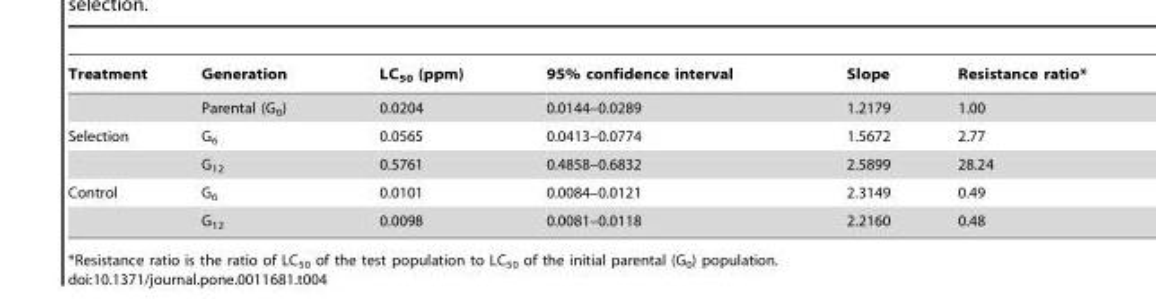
<table><thead><tr><td>Treatment</td><td>Generation</td><td>LC<sub>50</sub> (ppm)</td><td>95% confidence interval</td><td>Slope</td><td>Resistance ratio*</td></tr></thead><tbody><tr><td></td><td>Parental (G<sub>0</sub>)</td><td>0.0204</td><td>0.0144–0.0289</td><td>1.2179</td><td>1.00</td></tr><tr><td rowspan="2">Selection</td><td>G<sub>6</sub></td><td>0.0565</td><td>0.0413–0.0774</td><td>1.5672</td><td>2.77</td></tr><tr><td>G<sub>12</sub></td><td>0.5761</td><td>0.4858–0.6832</td><td>2.5899</td><td>28.24</td></tr><tr><td rowspan="2">Control</td><td>G<sub>6</sub></td><td>0.0101</td><td>0.0084–0.0121</td><td>2.3149</td><td>0.49</td></tr><tr><td>G<sub>12</sub></td><td>0.0098</td><td>0.0081–0.0118</td><td>2.2160</td><td>0.48</td></tr></tbody></table>